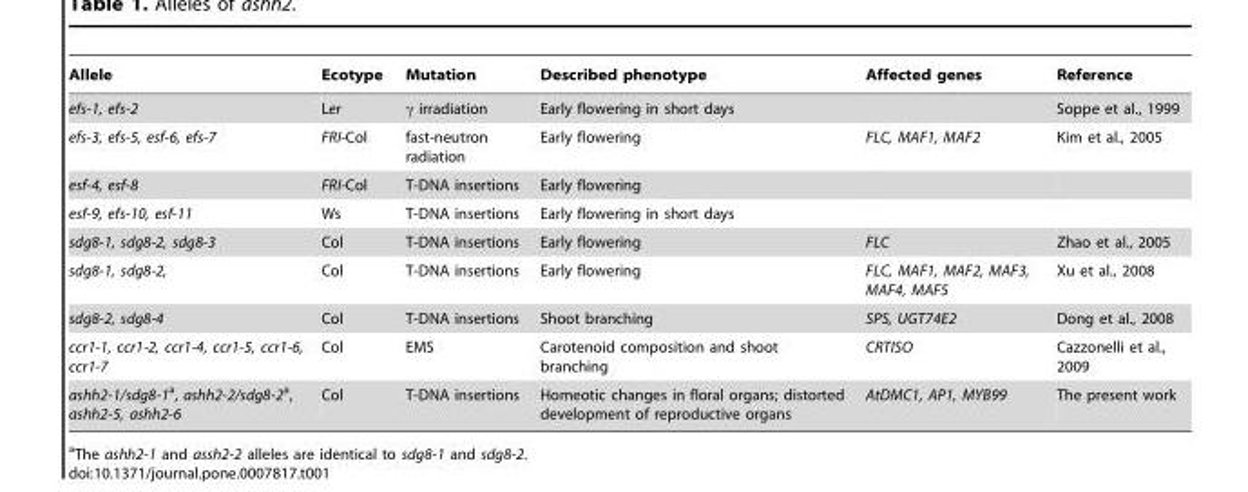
<table><thead><tr><td>Allele</td><td>Ecotype</td><td>Mutation</td><td>Described phenotype</td><td>Affected genes</td><td>Reference</td></tr></thead><tbody><tr><td>efs-1, efs-2</td><td>Ler</td><td>γ irradiation</td><td>Early flowering in short days</td><td></td><td>Soppe et al., 1999</td></tr><tr><td>efs-3, efs-5, esf-6, efs-7</td><td>FRI-Col</td><td>fast-neutron radiation</td><td>Early flowering</td><td>FLC, MAF1, MAF2</td><td>Kim et al., 2005</td></tr><tr><td>esf-4, esf-8</td><td>FRI-Col</td><td>T-DNA insertions</td><td>Early flowering</td><td></td><td></td></tr><tr><td>esf-9, efs-10, esf-11</td><td>Ws</td><td>T-DNA insertions</td><td>Early flowering in short days</td><td></td><td></td></tr><tr><td>sdg8-1, sdg8-2, sdg8-3</td><td>Col</td><td>T-DNA insertions</td><td>Early flowering</td><td>FLC</td><td>Zhao et al., 2005</td></tr><tr><td>sdg8-1, sdg8-2,</td><td>Col</td><td>T-DNA insertions</td><td>Early flowering</td><td>FLC, MAF1, MAF2, MAF3, MAF4, MAF5</td><td>Xu et al., 2008</td></tr><tr><td>sdg8-2, sdg8-4</td><td>Col</td><td>T-DNA insertions</td><td>Shoot branching</td><td>SPS, UGT74E2</td><td>Dong et al., 2008</td></tr><tr><td>ccr1-1, ccr1-2, ccr1-4, ccr1-5, ccr1-6, ccr1-7</td><td>Col</td><td>EMS</td><td>Carotenoid composition and shoot branching</td><td>CRTISO</td><td>Cazzonelli et al., 2009</td></tr><tr><td>ashh2-1/sdg8-1a, ashh2-2/sdg8-2a, ashh2-5, ashh2-6</td><td>Col</td><td>T-DNA insertions</td><td>Homeotic changes in floral organs; distorted development of reproductive organs</td><td>AtDMC1, AP1, MYB99</td><td>The present work</td></tr></tbody></table>